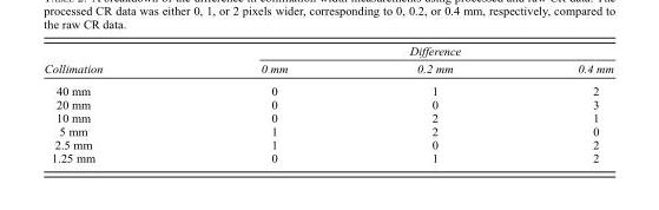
<table><thead><tr><td rowspan="2">Collimation</td><td colspan="3">Difference</td></tr><tr><td>0 mm</td><td>0.2 mm</td><td>0.4 mm</td></tr></thead><tbody><tr><td>40 mm</td><td>0</td><td>1</td><td>2</td></tr><tr><td>20 mm</td><td>0</td><td>0</td><td>3</td></tr><tr><td>10 mm</td><td>0</td><td>2</td><td>1</td></tr><tr><td>5 mm</td><td>1</td><td>2</td><td>0</td></tr><tr><td>2.5 mm</td><td>1</td><td>0</td><td>2</td></tr><tr><td>1.25 mm</td><td>0</td><td>1</td><td>2</td></tr></tbody></table>